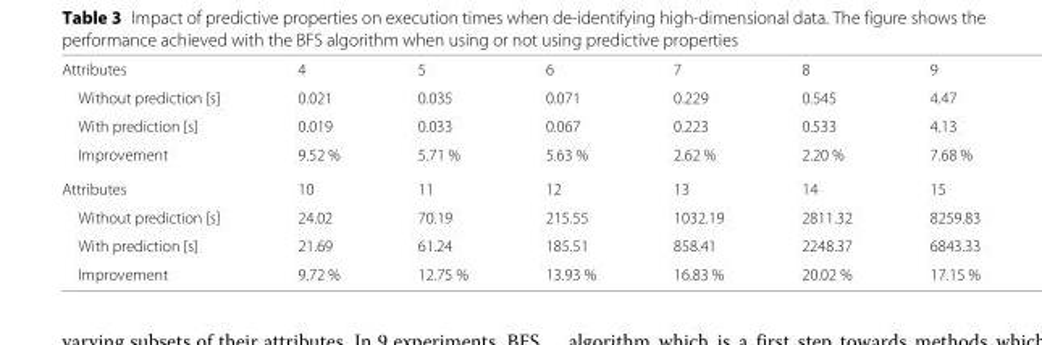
<table><tbody><tr><td>Attributes</td><td>4</td><td>5</td><td>6</td><td>7</td><td>8</td><td>9</td></tr><tr><td>Without prediction [s]</td><td>0.021</td><td>0.035</td><td>0.071</td><td>0.229</td><td>0.545</td><td>4.47</td></tr><tr><td>With prediction [s]</td><td>0.019</td><td>0.033</td><td>0.067</td><td>0.223</td><td>0.533</td><td>4.13</td></tr><tr><td>Improvement</td><td>9.52 %</td><td>5.71 %</td><td>5.63 %</td><td>2.62 %</td><td>2.20 %</td><td>7.68 %</td></tr><tr><td>Attributes</td><td>10</td><td>11</td><td>12</td><td>13</td><td>14</td><td>15</td></tr><tr><td>Without prediction [s]</td><td>24.02</td><td>70.19</td><td>215.55</td><td>1032.19</td><td>2811.32</td><td>8259.83</td></tr><tr><td>With prediction [s]</td><td>21.69</td><td>61.24</td><td>185.51</td><td>858.41</td><td>2248.37</td><td>6843.33</td></tr><tr><td>Improvement</td><td>9.72 %</td><td>12.75 %</td><td>13.93 %</td><td>16.83 %</td><td>20.02 %</td><td>17.15 %</td></tr></tbody></table>